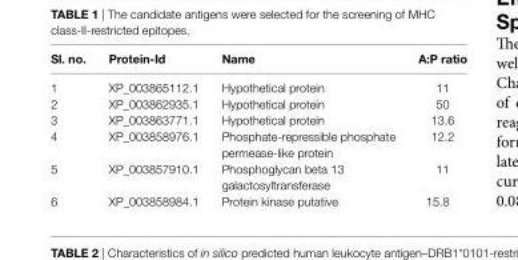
<table><thead><tr><td>sl. no.</td><td>Protein-id</td><td>name</td><td>a:P ratio</td></tr></thead><tbody><tr><td>1</td><td>XP_003865112.1</td><td>Hypothetical protein</td><td>11</td></tr><tr><td>2</td><td>XP_003862935.1</td><td>Hypothetical protein</td><td>50</td></tr><tr><td>3</td><td>XP_003863771.1</td><td>Hypothetical protein</td><td>13.6</td></tr><tr><td>4</td><td>XP_003858976.1</td><td>Phosphate-repressible phosphate permease-like protein</td><td>12.2</td></tr><tr><td>5</td><td>XP_003857910.1</td><td>Phosphoglycan beta 13 galactosyltransferase</td><td>11</td></tr><tr><td>6</td><td>XP_003858984.1</td><td>Protein kinase putative</td><td>15.8</td></tr></tbody></table>